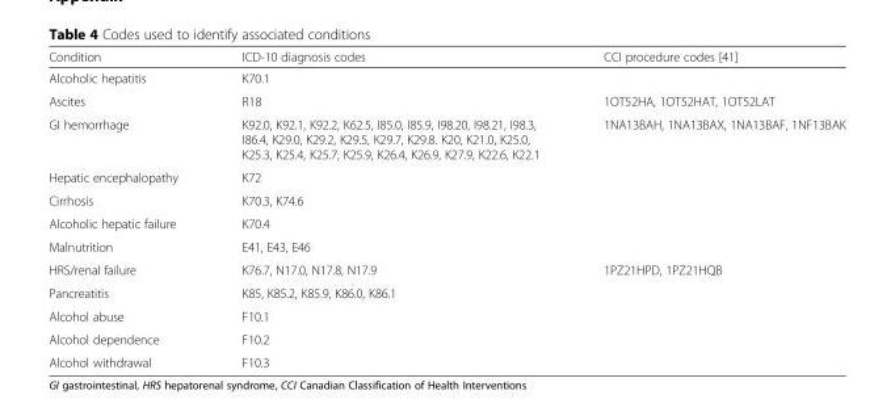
<table><thead><tr><td>Condition</td><td>ICD-10 diagnosis codes</td><td>CCI procedure codes [41]</td></tr></thead><tbody><tr><td>Alcoholic hepatitis</td><td>K70.1</td><td></td></tr><tr><td>Ascites</td><td>R18</td><td>1OT52HA, 1OT52HAT, 1OT52LAT</td></tr><tr><td>GI hemorrhage</td><td>K92.0, K92.1, K92.2, K62.5, I85.0, I85.9, I98.20, I98.21, I98.3, I86.4, K29.0, K29.2, K29.5, K29.7, K29.8. K20, K21.0, K25.0, K25.3, K25.4, K25.7, K25.9, K26.4, K26.9, K27.9, K22.6, K22.1</td><td>1NA13BAH, 1NA13BAX, 1NA13BAF, 1NF13BAK</td></tr><tr><td>Hepatic encephalopathy</td><td>K72</td><td></td></tr><tr><td>Cirrhosis</td><td>K70.3, K74.6</td><td></td></tr><tr><td>Alcoholic hepatic failure</td><td>K70.4</td><td></td></tr><tr><td>Malnutrition</td><td>E41, E43, E46</td><td></td></tr><tr><td>HRS/renal failure</td><td>K76.7, N17.0, N17.8, N17.9</td><td>1PZ21HPD, 1PZ21HQB</td></tr><tr><td>Pancreatitis</td><td>K85, K85.2, K85.9, K86.0, K86.1</td><td></td></tr><tr><td>Alcohol abuse</td><td>F10.1</td><td></td></tr><tr><td>Alcohol dependence</td><td>F10.2</td><td></td></tr><tr><td>Alcohol withdrawal</td><td>F10.3</td><td></td></tr></tbody></table>